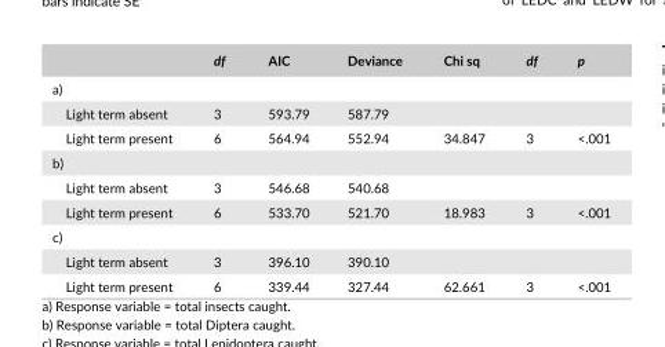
<table><thead><tr><td></td><td>df</td><td>AIC</td><td>Deviance</td><td>Chi sq</td><td>df</td><td>p</td></tr></thead><tbody><tr><td colspan="7">a)</td></tr><tr><td>Light term absent</td><td>3</td><td>593.79</td><td>587.79</td><td></td><td></td><td></td></tr><tr><td>Light term present</td><td>6</td><td>564.94</td><td>552.94</td><td>34.847</td><td>3</td><td>&lt;.001</td></tr><tr><td colspan="7">b)</td></tr><tr><td>Light term absent</td><td>3</td><td>546.68</td><td>540.68</td><td></td><td></td><td></td></tr><tr><td>Light term present</td><td>6</td><td>533.70</td><td>521.70</td><td>18.983</td><td>3</td><td>&lt;.001</td></tr><tr><td colspan="7">c)</td></tr><tr><td>Light term absent</td><td>3</td><td>396.10</td><td>390.10</td><td></td><td></td><td></td></tr><tr><td>Light term present</td><td>6</td><td>339.44</td><td>327.44</td><td>62.661</td><td>3</td><td>&lt;.001</td></tr></tbody></table>